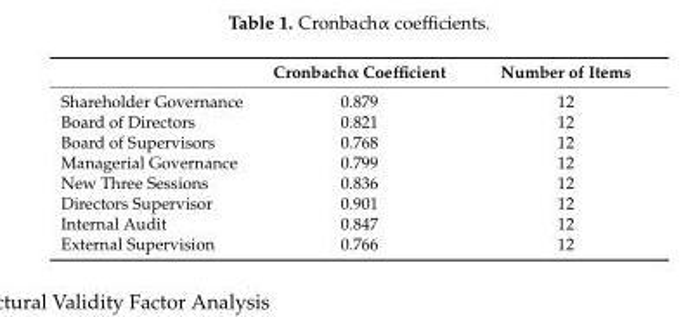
<table><thead><tr><td></td><td>Cronbachα Coefficient</td><td>Number of Items</td></tr></thead><tbody><tr><td>Shareholder Governance</td><td>0.879</td><td>12</td></tr><tr><td>Board of Directors</td><td>0.821</td><td>12</td></tr><tr><td>Board of Supervisors</td><td>0.768</td><td>12</td></tr><tr><td>Managerial Governance</td><td>0.799</td><td>12</td></tr><tr><td>New Three Sessions</td><td>0.836</td><td>12</td></tr><tr><td>Directors Supervisor</td><td>0.901</td><td>12</td></tr><tr><td>Internal Audit</td><td>0.847</td><td>12</td></tr><tr><td>External Supervision</td><td>0.766</td><td>12</td></tr></tbody></table>